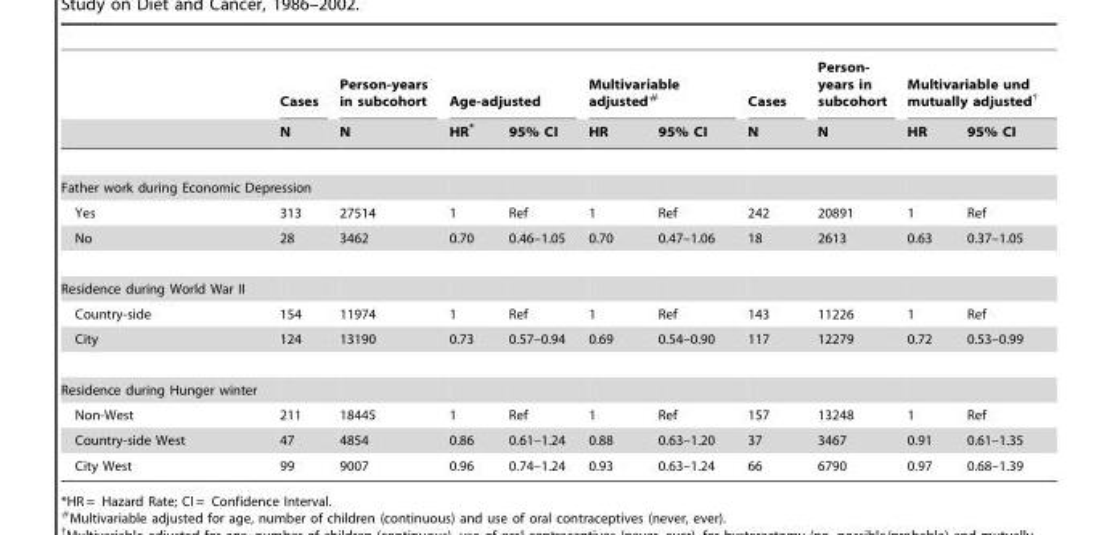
<table><thead><tr><td rowspan="2"></td><td rowspan="2">Cases N</td><td rowspan="2">Person-years in subcohort N</td><td colspan="2">Age-adjusted</td><td colspan="2">Multivariable adjusted#</td><td rowspan="2">Cases N</td><td rowspan="2">Person- years in subcohort N</td><td colspan="2">Multivariable und mutually adjusted†</td></tr><tr><td>HR*</td><td>95% CI</td><td>HR</td><td>95% CI</td><td>HR</td><td>95% CI</td></tr></thead><tbody><tr><td colspan="11">Father work during Economic Depression</td></tr><tr><td>Yes</td><td>313</td><td>27514</td><td>1</td><td>Ref</td><td>1</td><td>Ref</td><td>242</td><td>20891</td><td>1</td><td>Ref</td></tr><tr><td>No</td><td>28</td><td>3462</td><td>0.70</td><td>0.46–1.05</td><td>0.70</td><td>0.47–1.06</td><td>18</td><td>2613</td><td>0.63</td><td>0.37–1.05</td></tr><tr><td colspan="11">Residence during World War II</td></tr><tr><td>Country-side</td><td>154</td><td>11974</td><td>1</td><td>Ref</td><td>1</td><td>Ref</td><td>143</td><td>11226</td><td>1</td><td>Ref</td></tr><tr><td>City</td><td>124</td><td>13190</td><td>0.73</td><td>0.57–0.94</td><td>0.69</td><td>0.54–0.90</td><td>117</td><td>12279</td><td>0.72</td><td>0.53–0.99</td></tr><tr><td colspan="11">Residence during Hunger winter</td></tr><tr><td>Non-West</td><td>211</td><td>18445</td><td>1</td><td>Ref</td><td>1</td><td>Ref</td><td>157</td><td>13248</td><td>1</td><td>Ref</td></tr><tr><td>Country-side West</td><td>47</td><td>4854</td><td>0.86</td><td>0.61–1.24</td><td>0.88</td><td>0.63–1.20</td><td>37</td><td>3467</td><td>0.91</td><td>0.61–1.35</td></tr><tr><td>City West</td><td>99</td><td>9007</td><td>0.96</td><td>0.74–1.24</td><td>0.93</td><td>0.63–1.24</td><td>66</td><td>6790</td><td>0.97</td><td>0.68–1.39</td></tr></tbody></table>